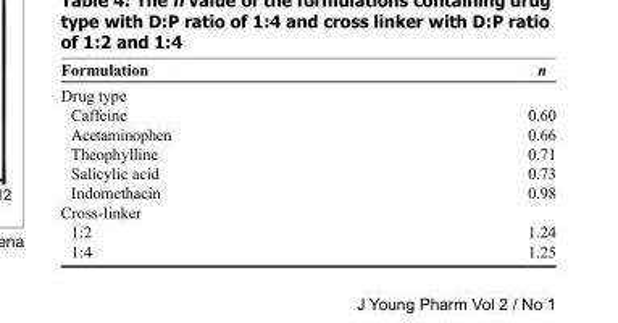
<table><thead><tr><td>Formulation</td><td>n</td></tr></thead><tbody><tr><td colspan="2">Drug type</td></tr><tr><td>Caffeine</td><td>0.60</td></tr><tr><td>Acetaminophen</td><td>0.66</td></tr><tr><td>Theophylline</td><td>0.71</td></tr><tr><td>Salicylic acid</td><td>0.73</td></tr><tr><td>Indomethacin</td><td>0.98</td></tr><tr><td colspan="2">Cross-linker</td></tr><tr><td>1:2</td><td>1.24</td></tr><tr><td>1:4</td><td>1.25</td></tr></tbody></table>